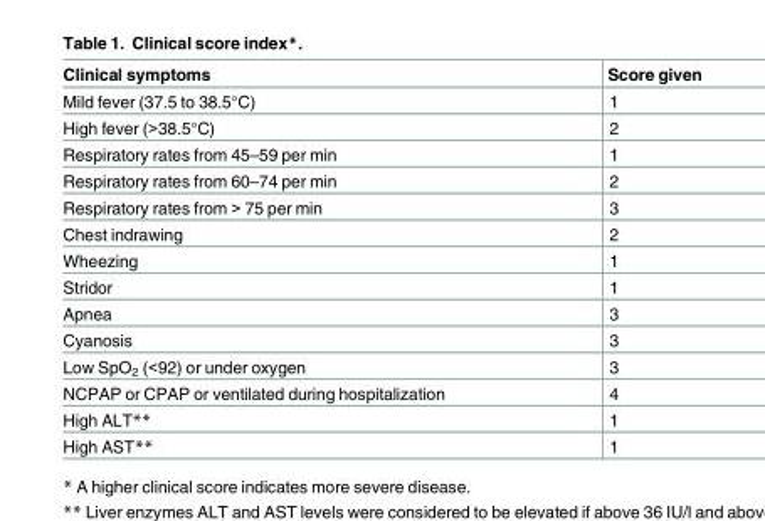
<table><thead><tr><td>Clinical symptoms</td><td>Score given</td></tr></thead><tbody><tr><td>Mild fever (37.5 to 38.5°C)</td><td>1</td></tr><tr><td>High fever (&gt;38.5°C)</td><td>2</td></tr><tr><td>Respiratory rates from 45–59 per min</td><td>1</td></tr><tr><td>Respiratory rates from 60–74 per min</td><td>2</td></tr><tr><td>Respiratory rates from &gt; 75 per min</td><td>3</td></tr><tr><td>Chest indrawing</td><td>2</td></tr><tr><td>Wheezing</td><td>1</td></tr><tr><td>Stridor</td><td>1</td></tr><tr><td>Apnea</td><td>3</td></tr><tr><td>Cyanosis</td><td>3</td></tr><tr><td>Low SpO<sub>2</sub> (&lt;92) or under oxygen</td><td>3</td></tr><tr><td>NCPAP or CPAP or ventilated during hospitalization</td><td>4</td></tr><tr><td>High ALT**</td><td>1</td></tr><tr><td>High AST**</td><td>1</td></tr></tbody></table>